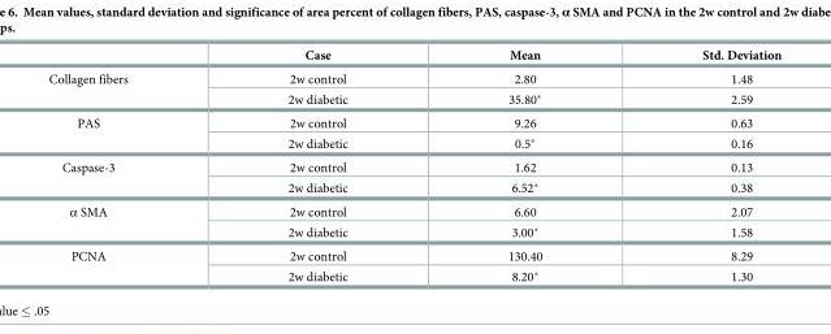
<table><thead><tr><td></td><td>Case</td><td>Mean</td><td>Std. Deviation</td></tr></thead><tbody><tr><td rowspan="2">Collagen fibers</td><td>2w control</td><td>2.80</td><td>1.48</td></tr><tr><td>2w diabetic</td><td>35.80*</td><td>2.59</td></tr><tr><td rowspan="2">PAS</td><td>2w control</td><td>9.26</td><td>0.63</td></tr><tr><td>2w diabetic</td><td>0.5*</td><td>0.16</td></tr><tr><td rowspan="2">Caspase-3</td><td>2w control</td><td>1.62</td><td>0.13</td></tr><tr><td>2w diabetic</td><td>6.52*</td><td>0.38</td></tr><tr><td rowspan="2">α SMA</td><td>2w control</td><td>6.60</td><td>2.07</td></tr><tr><td>2w diabetic</td><td>3.00*</td><td>1.58</td></tr><tr><td rowspan="2">PCNA</td><td>2w control</td><td>130.40</td><td>8.29</td></tr><tr><td>2w diabetic</td><td>8.20*</td><td>1.30</td></tr></tbody></table>